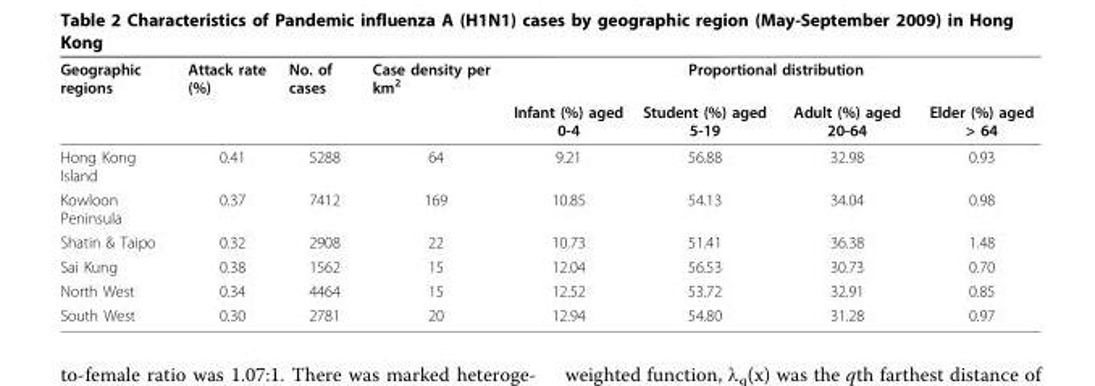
<table><thead><tr><td rowspan="2">Geographic regions</td><td rowspan="2">Attack rate (%)</td><td rowspan="2">No. of cases</td><td rowspan="2">Case density per km<sup>2</sup></td><td colspan="4">Proportional distribution</td></tr><tr><td>Infant (%) aged 0-4</td><td>Student (%) aged 5-19</td><td>Adult (%) aged 20-64</td><td>Elder (%) aged &gt; 64</td></tr></thead><tbody><tr><td>Hong Kong Island</td><td>0.41</td><td>5288</td><td>64</td><td>9.21</td><td>56.88</td><td>32.98</td><td>0.93</td></tr><tr><td>Kowloon Peninsula</td><td>0.37</td><td>7412</td><td>169</td><td>10.85</td><td>54.13</td><td>34.04</td><td>0.98</td></tr><tr><td>Shatin &amp; Taipo</td><td>0.32</td><td>2908</td><td>22</td><td>10.73</td><td>51.41</td><td>36.38</td><td>1.48</td></tr><tr><td>Sai Kung</td><td>0.38</td><td>1562</td><td>15</td><td>12.04</td><td>56.53</td><td>30.73</td><td>0.70</td></tr><tr><td>North West</td><td>0.34</td><td>4464</td><td>15</td><td>12.52</td><td>53.72</td><td>32.91</td><td>0.85</td></tr><tr><td>South West</td><td>0.30</td><td>2781</td><td>20</td><td>12.94</td><td>54.80</td><td>31.28</td><td>0.97</td></tr></tbody></table>